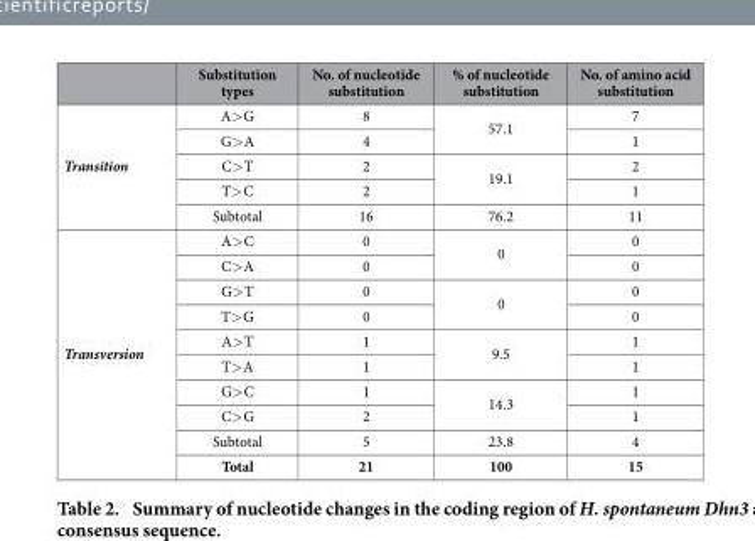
<table><thead><tr><td></td><td>Substitution types</td><td>No. of nucleotide substitution</td><td>% of nucleotide substitution</td><td>No. of amino acid substitution</td></tr></thead><tbody><tr><td rowspan="5">Transition</td><td>A&gt; G</td><td>8</td><td rowspan="2">57.1</td><td>7</td></tr><tr><td>G&gt; A</td><td>4</td><td>1</td></tr><tr><td>C&gt; T</td><td>2</td><td rowspan="2">19.1</td><td>2</td></tr><tr><td>T&gt; C</td><td>2</td><td>1</td></tr><tr><td>Subtotal</td><td>16</td><td>76.2</td><td>11</td></tr><tr><td rowspan="10">Transversion</td><td>A&gt; C</td><td>0</td><td rowspan="2">0</td><td>0</td></tr><tr><td>C&gt; A</td><td>0</td><td>0</td></tr><tr><td>G&gt; T</td><td>0</td><td rowspan="2">0</td><td>0</td></tr><tr><td>T&gt; G</td><td>0</td><td>0</td></tr><tr><td>A&gt; T</td><td>1</td><td rowspan="2">9.5</td><td>1</td></tr><tr><td>T&gt; A</td><td>1</td><td>1</td></tr><tr><td>G&gt; C</td><td>1</td><td rowspan="2">14.3</td><td>1</td></tr><tr><td>C&gt; G</td><td>2</td><td>1</td></tr><tr><td>Subtotal</td><td>5</td><td>23.8</td><td>4</td></tr><tr><td>Total</td><td>21</td><td>100</td><td>15</td></tr></tbody></table>